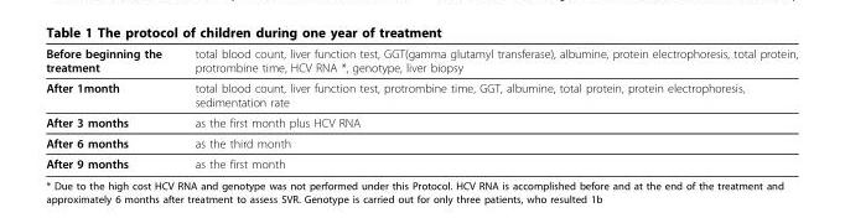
<table><thead><tr><td>Before beginning the treatment</td><td>total blood count, liver function test, GGT(gamma glutamyl transferase), albumine, protein electrophoresis, total protein, protrombine time, HCV RNA *, genotype, liver biopsy</td></tr></thead><tbody><tr><td>After 1month</td><td>total blood count, liver function test, protrombine time, GGT, albumine, total protein, protein electrophoresis, sedimentation rate</td></tr><tr><td>After 3 months</td><td>as the first month plus HCV RNA</td></tr><tr><td>After 6 months</td><td>as the third month</td></tr><tr><td>After 9 months</td><td>as the first month</td></tr></tbody></table>